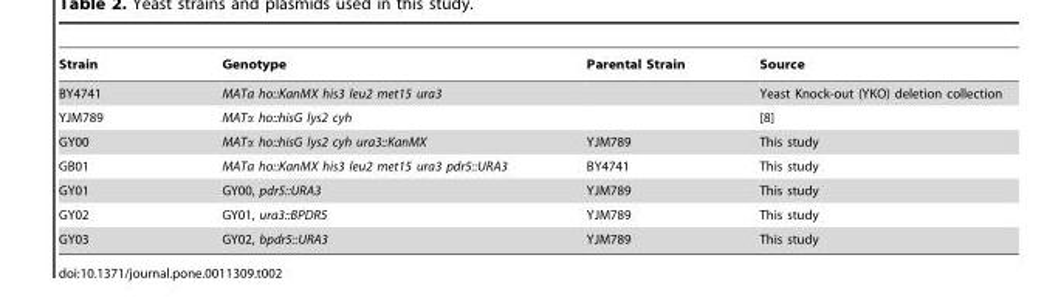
<table><thead><tr><td>Strain</td><td>Genotype</td><td>Parental Strain</td><td>Source</td></tr></thead><tbody><tr><td>BY4741</td><td>MATa ho::KanMX his3 leu2 met15 ura3</td><td></td><td>Yeast Knock-out (YKO) deletion collection</td></tr><tr><td>YJM789</td><td>MATα ho::hisG lys2 cyh</td><td></td><td>[8]</td></tr><tr><td>GY00</td><td>MATα ho::hisG lys2 cyh ura3::KanMX</td><td>YJM789</td><td>This study</td></tr><tr><td>GB01</td><td>MATa ho::KanMX his3 leu2 met15 ura3 pdr5::URA3</td><td>BY4741</td><td>This study</td></tr><tr><td>GY01</td><td>GY00, pdr5::URA3</td><td>YJM789</td><td>This study</td></tr><tr><td>GY02</td><td>GY01, ura3::BPDR5</td><td>YJM789</td><td>This study</td></tr><tr><td>GY03</td><td>GY02, bpdr5::URA3</td><td>YJM789</td><td>This study</td></tr></tbody></table>